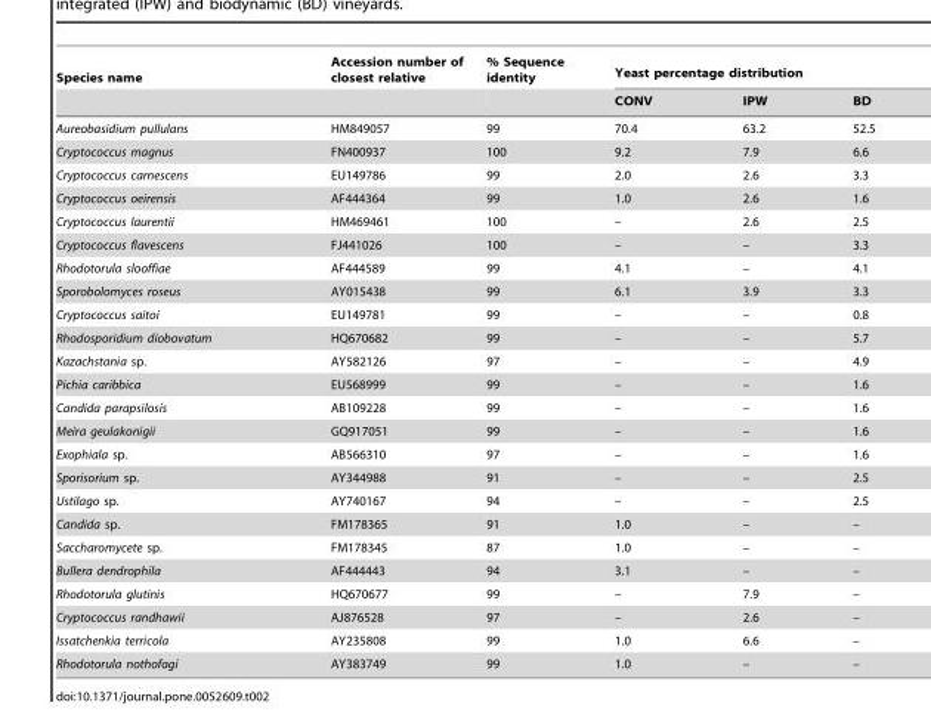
<table><thead><tr><td rowspan="2">Species name</td><td rowspan="2">Accession number of closest relative</td><td rowspan="2">% Sequence identity</td><td colspan="3">Yeast percentage distribution</td></tr><tr><td>CONV</td><td>IPW</td><td>BD</td></tr></thead><tbody><tr><td>Aureobasidium pullulans</td><td>HM849057</td><td>99</td><td>70.4</td><td>63.2</td><td>52.5</td></tr><tr><td>Cryptococcus magnus</td><td>FN400937</td><td>100</td><td>9.2</td><td>7.9</td><td>6.6</td></tr><tr><td>Cryptococcus carnescens</td><td>EU149786</td><td>99</td><td>2.0</td><td>2.6</td><td>3.3</td></tr><tr><td>Cryptococcus oeirensis</td><td>AF444364</td><td>99</td><td>1.0</td><td>2.6</td><td>1.6</td></tr><tr><td>Cryptococcus laurentii</td><td>HM469461</td><td>100</td><td>–</td><td>2.6</td><td>2.5</td></tr><tr><td>Cryptococcus flavescens</td><td>FJ441026</td><td>100</td><td>–</td><td>–</td><td>3.3</td></tr><tr><td>Rhodotorula slooffiae</td><td>AF444589</td><td>99</td><td>4.1</td><td>–</td><td>4.1</td></tr><tr><td>Sporobolomyces roseus</td><td>AY015438</td><td>99</td><td>6.1</td><td>3.9</td><td>3.3</td></tr><tr><td>Cryptococcus saitoi</td><td>EU149781</td><td>99</td><td>–</td><td>–</td><td>0.8</td></tr><tr><td>Rhodosporidium diobovatum</td><td>HQ670682</td><td>99</td><td>–</td><td>–</td><td>5.7</td></tr><tr><td>Kazachstania sp.</td><td>AY582126</td><td>97</td><td>–</td><td>–</td><td>4.9</td></tr><tr><td>Pichia caribbica</td><td>EU568999</td><td>99</td><td>–</td><td>–</td><td>1.6</td></tr><tr><td>Candida parapsilosis</td><td>AB109228</td><td>99</td><td>–</td><td>–</td><td>1.6</td></tr><tr><td>Meira geulakonigii</td><td>GQ917051</td><td>99</td><td>–</td><td>–</td><td>1.6</td></tr><tr><td>Exophiala sp.</td><td>AB566310</td><td>97</td><td>–</td><td>–</td><td>1.6</td></tr><tr><td>Sporisorium sp.</td><td>AY344988</td><td>91</td><td>–</td><td>–</td><td>2.5</td></tr><tr><td>Ustilago sp.</td><td>AY740167</td><td>94</td><td>–</td><td>–</td><td>2.5</td></tr><tr><td>Candida sp.</td><td>FM178365</td><td>91</td><td>1.0</td><td>–</td><td>–</td></tr><tr><td>Saccharomycete sp.</td><td>FM178345</td><td>87</td><td>1.0</td><td>–</td><td>–</td></tr><tr><td>Bullera dendrophila</td><td>AF444443</td><td>94</td><td>3.1</td><td>–</td><td>–</td></tr><tr><td>Rhodotorula glutinis</td><td>HQ670677</td><td>99</td><td>–</td><td>7.9</td><td>–</td></tr><tr><td>Cryptococcus randhawii</td><td>AJ876528</td><td>97</td><td>–</td><td>2.6</td><td>–</td></tr><tr><td>Issatchenkia terricola</td><td>AY235808</td><td>99</td><td>1.0</td><td>6.6</td><td>–</td></tr><tr><td>Rhodotorula nothofagi</td><td>AY383749</td><td>99</td><td>1.0</td><td>–</td><td>–</td></tr></tbody></table>